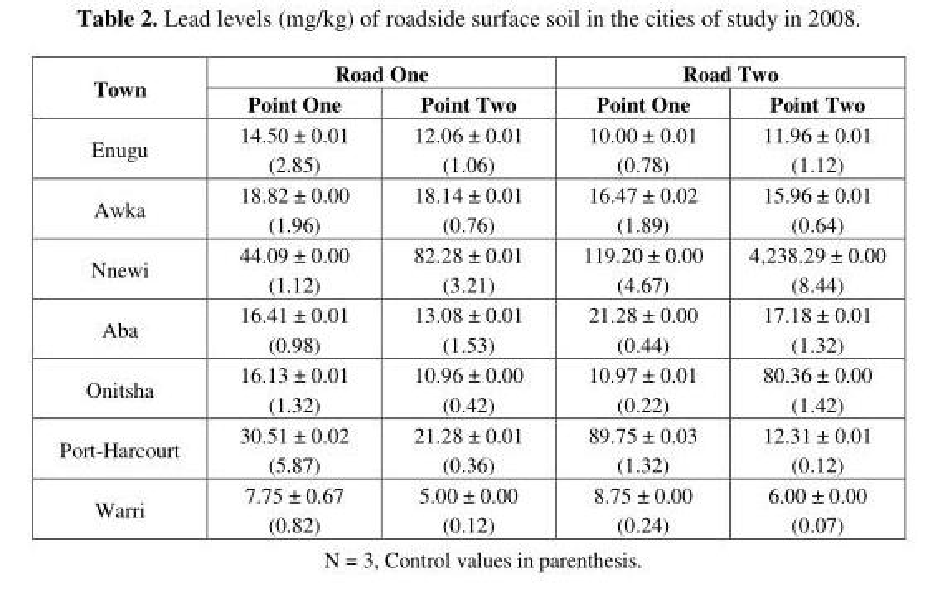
<table><thead><tr><td rowspan="2">Town</td><td colspan="2">Road One</td><td colspan="2">Road Two</td></tr><tr><td>Point One</td><td>Point Two</td><td>Point One</td><td>Point Two</td></tr></thead><tbody><tr><td>Enugu</td><td>14.50 ± 0.01 (2.85)</td><td>12.06 ± 0.01 (1.06)</td><td>10.00 ± 0.01 (0.78)</td><td>11.96 ± 0.01 (1.12)</td></tr><tr><td>Awka</td><td>18.82 ± 0.00 (1.96)</td><td>18.14 ± 0.01 (0.76)</td><td>16.47 ± 0.02 (1.89)</td><td>15.96 ± 0.01 (0.64)</td></tr><tr><td>Nnewi</td><td>44.09 ± 0.00 (1.12)</td><td>82.28 ± 0.01 (3.21)</td><td>119.20 ± 0.00 (4.67)</td><td>4,238.29 ± 0.00 (8.44)</td></tr><tr><td>Aba</td><td>16.41 ± 0.01 (0.98)</td><td>13.08 ± 0.01 (1.53)</td><td>21.28 ± 0.00 (0.44)</td><td>17.18 ± 0.01 (1.32)</td></tr><tr><td>Onitsha</td><td>16.13 ± 0.01 (1.32)</td><td>10.96 ± 0.00 (0.42)</td><td>10.97 ± 0.01 (0.22)</td><td>80.36 ± 0.00 (1.42)</td></tr><tr><td>Port-Harcourt</td><td>30.51 ± 0.02 (5.87)</td><td>21.28 ± 0.01 (0.36)</td><td>89.75 ± 0.03 (1.32)</td><td>12.31 ± 0.01 (0.12)</td></tr><tr><td>Warri</td><td>7.75 ± 0.67 (0.82)</td><td>5.00 ± 0.00 (0.12)</td><td>8.75 ± 0.00 (0.24)</td><td>6.00 ± 0.00 (0.07)</td></tr></tbody></table>